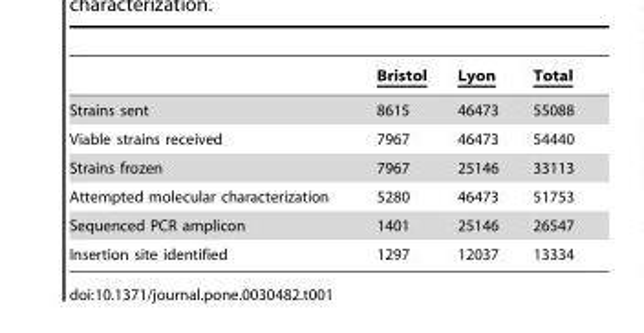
<table><thead><tr><td></td><td>Bristol</td><td>Lyon</td><td>Total</td></tr></thead><tbody><tr><td>Strains sent</td><td>8615</td><td>46473</td><td>55088</td></tr><tr><td>Viable strains received</td><td>7967</td><td>46473</td><td>54440</td></tr><tr><td>Strains frozen</td><td>7967</td><td>25146</td><td>33113</td></tr><tr><td>Attempted molecular characterization</td><td>5280</td><td>46473</td><td>51753</td></tr><tr><td>Sequenced PCR amplicon</td><td>1401</td><td>25146</td><td>26547</td></tr><tr><td>Insertion site identified</td><td>1297</td><td>12037</td><td>13334</td></tr></tbody></table>